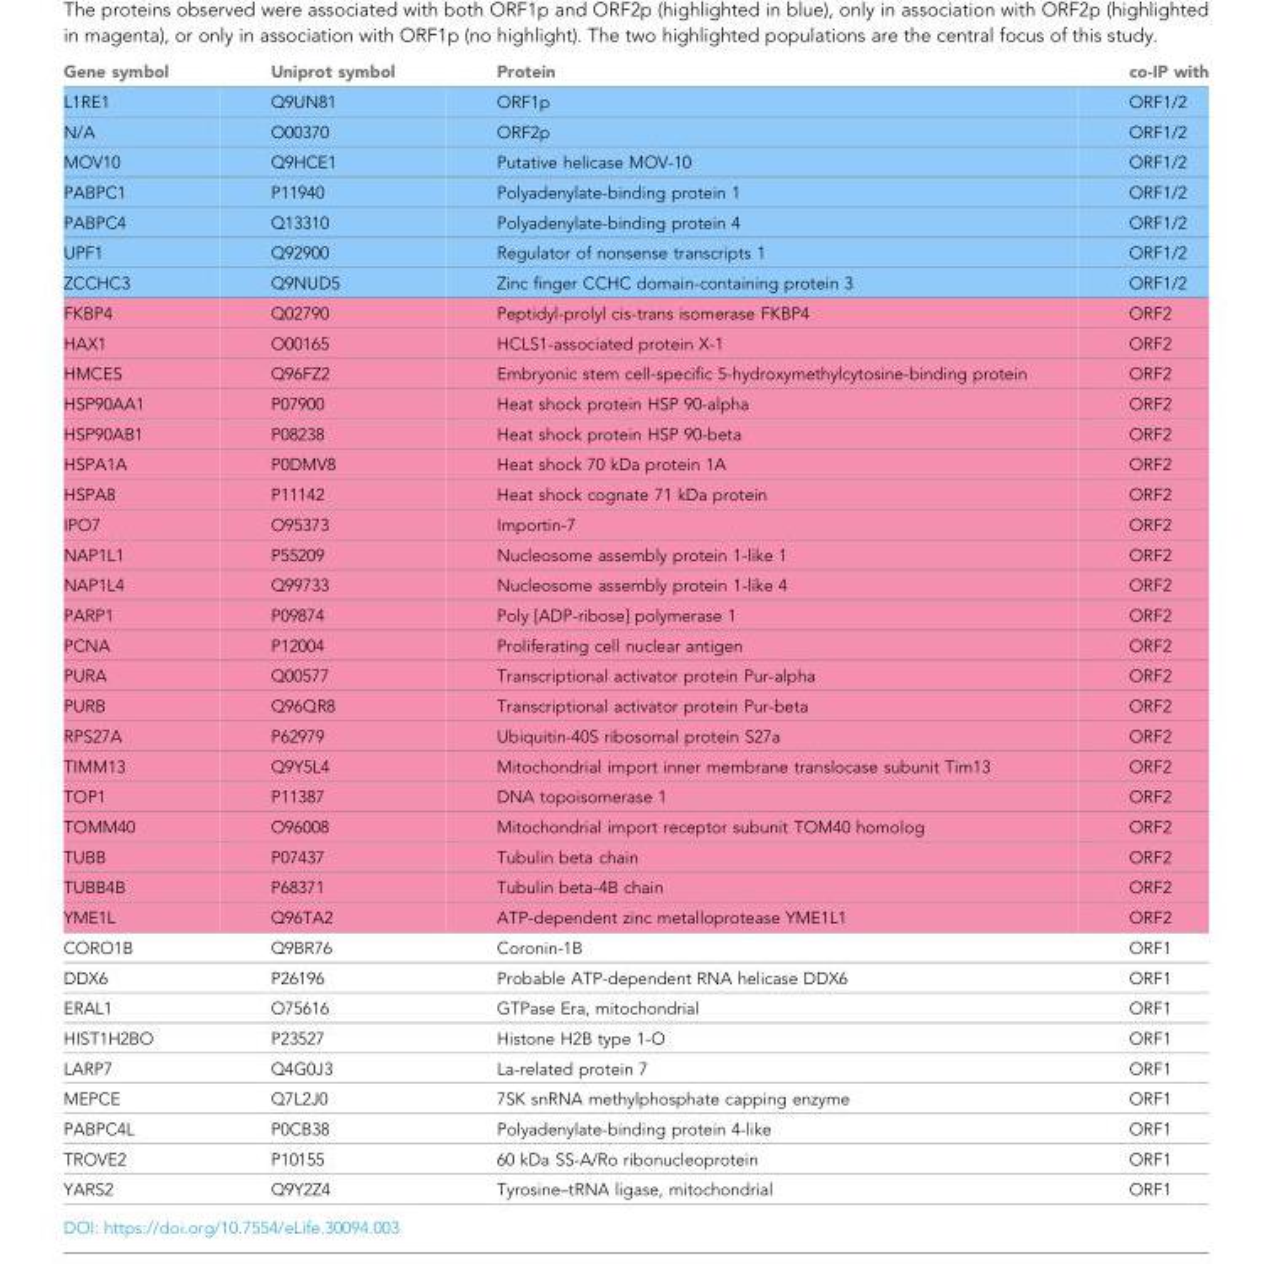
<table><thead><tr><td>Gene symbol</td><td>Uniprot symbol</td><td>Protein</td><td>co-IP with</td></tr></thead><tbody><tr><td>L1RE1</td><td>Q9UN81</td><td>ORF1p</td><td>ORF1/2</td></tr><tr><td>N/A</td><td>O00370</td><td>ORF2p</td><td>ORF1/2</td></tr><tr><td>MOV10</td><td>Q9HCE1</td><td>Putative helicase MOV-10</td><td>ORF1/2</td></tr><tr><td>PABPC1</td><td>P11940</td><td>Polyadenylate-binding protein 1</td><td>ORF1/2</td></tr><tr><td>PABPC4</td><td>Q13310</td><td>Polyadenylate-binding protein 4</td><td>ORF1/2</td></tr><tr><td>UPF1</td><td>Q92900</td><td>Regulator of nonsense transcripts 1</td><td>ORF1/2</td></tr><tr><td>ZCCHC3</td><td>Q9NUD5</td><td>Zinc finger CCHC domain-containing protein 3</td><td>ORF1/2</td></tr><tr><td>FKBP4</td><td>Q02790</td><td>Peptidyl-prolyl cis-trans isomerase FKBP4</td><td>ORF2</td></tr><tr><td>HAX1</td><td>O00165</td><td>HCLS1-associated protein X-1</td><td>ORF2</td></tr><tr><td>HMCES</td><td>Q96FZ2</td><td>Embryonic stem cell-specific 5-hydroxymethylcytosine-binding protein</td><td>ORF2</td></tr><tr><td>HSP90AA1</td><td>P07900</td><td>Heat shock protein HSP 90-alpha</td><td>ORF2</td></tr><tr><td>HSP90AB1</td><td>P08238</td><td>Heat shock protein HSP 90-beta</td><td>ORF2</td></tr><tr><td>HSPA1A</td><td>P0DMV8</td><td>Heat shock 70 kDa protein 1A</td><td>ORF2</td></tr><tr><td>HSPA8</td><td>P11142</td><td>Heat shock cognate 71 kDa protein</td><td>ORF2</td></tr><tr><td>IPO7</td><td>O95373</td><td>Importin-7</td><td>ORF2</td></tr><tr><td>NAP1L1</td><td>P55209</td><td>Nucleosome assembly protein 1-like 1</td><td>ORF2</td></tr><tr><td>NAP1L4</td><td>Q99733</td><td>Nucleosome assembly protein 1-like 4</td><td>ORF2</td></tr><tr><td>PARP1</td><td>P09874</td><td>Poly [ADP-ribose] polymerase 1</td><td>ORF2</td></tr><tr><td>PCNA</td><td>P12004</td><td>Proliferating cell nuclear antigen</td><td>ORF2</td></tr><tr><td>PURA</td><td>Q00577</td><td>Transcriptional activator protein Pur-alpha</td><td>ORF2</td></tr><tr><td>PURB</td><td>Q96QR8</td><td>Transcriptional activator protein Pur-beta</td><td>ORF2</td></tr><tr><td>RPS27A</td><td>P62979</td><td>Ubiquitin-40S ribosomal protein S27a</td><td>ORF2</td></tr><tr><td>TIMM13</td><td>Q9Y5L4</td><td>Mitochondrial import inner membrane translocase subunit Tim13</td><td>ORF2</td></tr><tr><td>TOP1</td><td>P11387</td><td>DNA topoisomerase 1</td><td>ORF2</td></tr><tr><td>TOMM40</td><td>O96008</td><td>Mitochondrial import receptor subunit TOM40 homolog</td><td>ORF2</td></tr><tr><td>TUBB</td><td>P07437</td><td>Tubulin beta chain</td><td>ORF2</td></tr><tr><td>TUBB4B</td><td>P68371</td><td>Tubulin beta-4B chain</td><td>ORF2</td></tr><tr><td>YME1L</td><td>Q96TA2</td><td>ATP-dependent zinc metalloprotease YME1L1</td><td>ORF2</td></tr><tr><td>CORO1B</td><td>Q9BR76</td><td>Coronin-1B</td><td>ORF1</td></tr><tr><td>DDX6</td><td>P26196</td><td>Probable ATP-dependent RNA helicase DDX6</td><td>ORF1</td></tr><tr><td>ERAL1</td><td>O75616</td><td>GTPase Era, mitochondrial</td><td>ORF1</td></tr><tr><td>HIST1H2BO</td><td>P23527</td><td>Histone H2B type 1-O</td><td>ORF1</td></tr><tr><td>LARP7</td><td>Q4G0J3</td><td>La-related protein 7</td><td>ORF1</td></tr><tr><td>MEPCE</td><td>Q7L2J0</td><td>7SK snRNA methylphosphate capping enzyme</td><td>ORF1</td></tr><tr><td>PABPC4L</td><td>P0CB38</td><td>Polyadenylate-binding protein 4-like</td><td>ORF1</td></tr><tr><td>TROVE2</td><td>P10155</td><td>60 kDa SS-A/Ro ribonucleoprotein</td><td>ORF1</td></tr><tr><td>YARS2</td><td>Q9Y2Z4</td><td>Tyrosine–tRNA ligase, mitochondrial</td><td>ORF1</td></tr></tbody></table>